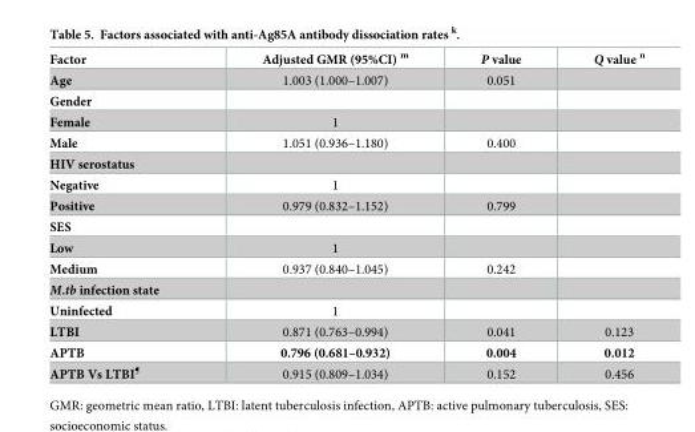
<table><thead><tr><td>Factor</td><td>Adjusted GMR (95%CI) <sup>m</sup></td><td>P value</td><td>Q value <sup>n</sup></td></tr></thead><tbody><tr><td>Age</td><td>1.003 (1.000–1.007)</td><td>0.051</td><td></td></tr><tr><td colspan="4">Gender</td></tr><tr><td>Female</td><td>1</td><td></td><td></td></tr><tr><td>Male</td><td>1.051 (0.936–1.180)</td><td>0.400</td><td></td></tr><tr><td colspan="4">HIV serostatus</td></tr><tr><td>Negative</td><td>1</td><td></td><td></td></tr><tr><td>Positive</td><td>0.979 (0.832–1.152)</td><td>0.799</td><td></td></tr><tr><td colspan="4">SES</td></tr><tr><td>Low</td><td>1</td><td></td><td></td></tr><tr><td>Medium</td><td>0.937 (0.840–1.045)</td><td>0.242</td><td></td></tr><tr><td colspan="4">M.tb infection state</td></tr><tr><td>Uninfected</td><td>1</td><td></td><td></td></tr><tr><td>LTBI</td><td>0.871 (0.763–0.994)</td><td>0.041</td><td>0.123</td></tr><tr><td>APTB</td><td>0.796 (0.681–0.932)</td><td>0.004</td><td>0.012</td></tr><tr><td>APTB Vs LTBI<sup>¶</sup></td><td>0.915 (0.809–1.034)</td><td>0.152</td><td>0.456</td></tr></tbody></table>